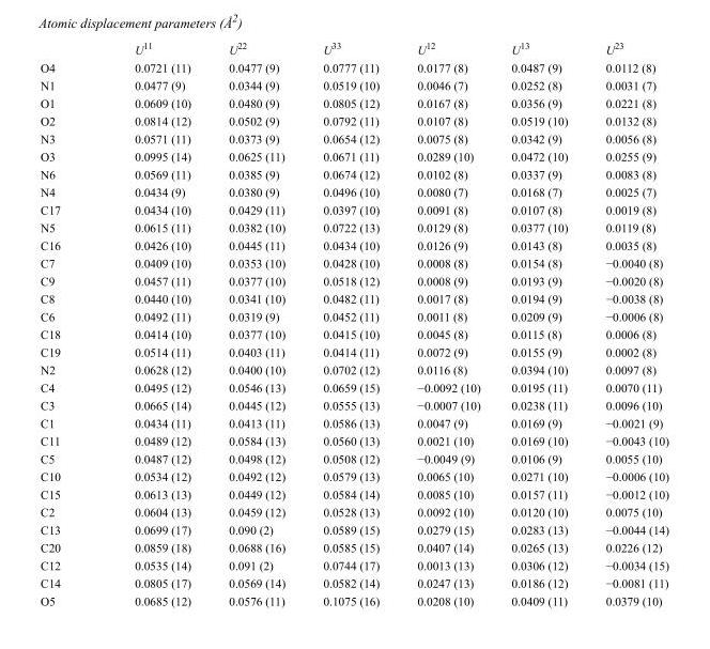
<table><thead><tr><td></td><td>U<sup>11</sup></td><td>U<sup>22</sup></td><td>U<sup>33</sup></td><td>U<sup>12</sup></td><td>U<sup>13</sup></td><td>U<sup>23</sup></td></tr></thead><tbody><tr><td>O4</td><td>0.0721 (11)</td><td>0.0477 (9)</td><td>0.0777 (11)</td><td>0.0177 (8)</td><td>0.0487 (9)</td><td>0.0112 (8)</td></tr><tr><td>N1</td><td>0.0477 (9)</td><td>0.0344 (9)</td><td>0.0519 (10)</td><td>0.0046 (7)</td><td>0.0252 (8)</td><td>0.0031 (7)</td></tr><tr><td>O1</td><td>0.0609 (10)</td><td>0.0480 (9)</td><td>0.0805 (12)</td><td>0.0167 (8)</td><td>0.0356 (9)</td><td>0.0221 (8)</td></tr><tr><td>O2</td><td>0.0814 (12)</td><td>0.0502 (9)</td><td>0.0792 (11)</td><td>0.0107 (8)</td><td>0.0519 (10)</td><td>0.0132 (8)</td></tr><tr><td>N3</td><td>0.0571 (11)</td><td>0.0373 (9)</td><td>0.0654 (12)</td><td>0.0075 (8)</td><td>0.0342 (9)</td><td>0.0056 (8)</td></tr><tr><td>O3</td><td>0.0995 (14)</td><td>0.0625 (11)</td><td>0.0671 (11)</td><td>0.0289 (10)</td><td>0.0472 (10)</td><td>0.0255 (9)</td></tr><tr><td>N6</td><td>0.0569 (11)</td><td>0.0385 (9)</td><td>0.0674 (12)</td><td>0.0102 (8)</td><td>0.0337 (9)</td><td>0.0083 (8)</td></tr><tr><td>N4</td><td>0.0434 (9)</td><td>0.0380 (9)</td><td>0.0496 (10)</td><td>0.0080 (7)</td><td>0.0168 (7)</td><td>0.0025 (7)</td></tr><tr><td>C17</td><td>0.0434 (10)</td><td>0.0429 (11)</td><td>0.0397 (10)</td><td>0.0091 (8)</td><td>0.0107 (8)</td><td>0.0019 (8)</td></tr><tr><td>N5</td><td>0.0615 (11)</td><td>0.0382 (10)</td><td>0.0722 (13)</td><td>0.0129 (8)</td><td>0.0377 (10)</td><td>0.0119 (8)</td></tr><tr><td>C16</td><td>0.0426 (10)</td><td>0.0445 (11)</td><td>0.0434 (10)</td><td>0.0126 (9)</td><td>0.0143 (8)</td><td>0.0035 (8)</td></tr><tr><td>C7</td><td>0.0409 (10)</td><td>0.0353 (10)</td><td>0.0428 (10)</td><td>0.0008 (8)</td><td>0.0154 (8)</td><td>−0.0040 (8)</td></tr><tr><td>C9</td><td>0.0457 (11)</td><td>0.0377 (10)</td><td>0.0518 (12)</td><td>0.0008 (9)</td><td>0.0193 (9)</td><td>−0.0020 (8)</td></tr><tr><td>C8</td><td>0.0440 (10)</td><td>0.0341 (10)</td><td>0.0482 (11)</td><td>0.0017 (8)</td><td>0.0194 (9)</td><td>−0.0038 (8)</td></tr><tr><td>C6</td><td>0.0492 (11)</td><td>0.0319 (9)</td><td>0.0452 (11)</td><td>0.0011 (8)</td><td>0.0209 (9)</td><td>−0.0006 (8)</td></tr><tr><td>C18</td><td>0.0414 (10)</td><td>0.0377 (10)</td><td>0.0415 (10)</td><td>0.0045 (8)</td><td>0.0115 (8)</td><td>0.0006 (8)</td></tr><tr><td>C19</td><td>0.0514 (11)</td><td>0.0403 (11)</td><td>0.0414 (11)</td><td>0.0072 (9)</td><td>0.0155 (9)</td><td>0.0002 (8)</td></tr><tr><td>N2</td><td>0.0628 (12)</td><td>0.0400 (10)</td><td>0.0702 (12)</td><td>0.0116 (8)</td><td>0.0394 (10)</td><td>0.0097 (8)</td></tr><tr><td>C4</td><td>0.0495 (12)</td><td>0.0546 (13)</td><td>0.0659 (15)</td><td>−0.0092 (10)</td><td>0.0195 (11)</td><td>0.0070 (11)</td></tr><tr><td>C3</td><td>0.0665 (14)</td><td>0.0445 (12)</td><td>0.0555 (13)</td><td>−0.0007 (10)</td><td>0.0238 (11)</td><td>0.0096 (10)</td></tr><tr><td>C1</td><td>0.0434 (11)</td><td>0.0413 (11)</td><td>0.0586 (13)</td><td>0.0047 (9)</td><td>0.0169 (9)</td><td>−0.0021 (9)</td></tr><tr><td>C11</td><td>0.0489 (12)</td><td>0.0584 (13)</td><td>0.0560 (13)</td><td>0.0021 (10)</td><td>0.0169 (10)</td><td>−0.0043 (10)</td></tr><tr><td>C5</td><td>0.0487 (12)</td><td>0.0498 (12)</td><td>0.0508 (12)</td><td>−0.0049 (9)</td><td>0.0106 (9)</td><td>0.0055 (10)</td></tr><tr><td>C10</td><td>0.0534 (12)</td><td>0.0492 (12)</td><td>0.0579 (13)</td><td>0.0065 (10)</td><td>0.0271 (10)</td><td>−0.0006 (10)</td></tr><tr><td>C15</td><td>0.0613 (13)</td><td>0.0449 (12)</td><td>0.0584 (14)</td><td>0.0085 (10)</td><td>0.0157 (11)</td><td>−0.0012 (10)</td></tr><tr><td>C2</td><td>0.0604 (13)</td><td>0.0459 (12)</td><td>0.0528 (13)</td><td>0.0092 (10)</td><td>0.0120 (10)</td><td>0.0075 (10)</td></tr><tr><td>C13</td><td>0.0699 (17)</td><td>0.090 (2)</td><td>0.0589 (15)</td><td>0.0279 (15)</td><td>0.0283 (13)</td><td>−0.0044 (14)</td></tr><tr><td>C20</td><td>0.0859 (18)</td><td>0.0688 (16)</td><td>0.0585 (15)</td><td>0.0407 (14)</td><td>0.0265 (13)</td><td>0.0226 (12)</td></tr><tr><td>C12</td><td>0.0535 (14)</td><td>0.091 (2)</td><td>0.0744 (17)</td><td>0.0013 (13)</td><td>0.0306 (12)</td><td>−0.0034 (15)</td></tr><tr><td>C14</td><td>0.0805 (17)</td><td>0.0569 (14)</td><td>0.0582 (14)</td><td>0.0247 (13)</td><td>0.0186 (12)</td><td>−0.0081 (11)</td></tr><tr><td>O5</td><td>0.0685 (12)</td><td>0.0576 (11)</td><td>0.1075 (16)</td><td>0.0208 (10)</td><td>0.0409 (11)</td><td>0.0379 (10)</td></tr></tbody></table>